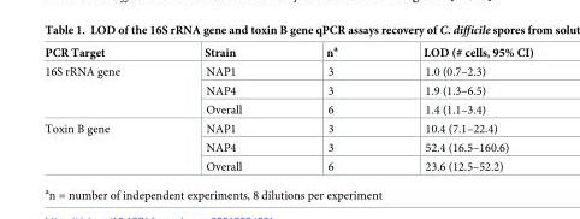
<table><thead><tr><td>PCR Target</td><td>Strain</td><td>n<sup>a</sup></td><td>LOD (# cells, 95% CI)</td></tr></thead><tbody><tr><td rowspan="3">16S rRNA gene</td><td>NAP1</td><td>3</td><td>1.0 (0.7–2.3)</td></tr><tr><td>NAP4</td><td>3</td><td>1.9 (1.3–6.5)</td></tr><tr><td>Overall</td><td>6</td><td>1.4 (1.1–3.4)</td></tr><tr><td rowspan="3">Toxin B gene</td><td>NAP1</td><td>3</td><td>10.4 (7.1–22.4)</td></tr><tr><td>NAP4</td><td>3</td><td>52.4 (16.5–160.6)</td></tr><tr><td>Overall</td><td>6</td><td>23.6 (12.5–52.2)</td></tr></tbody></table>